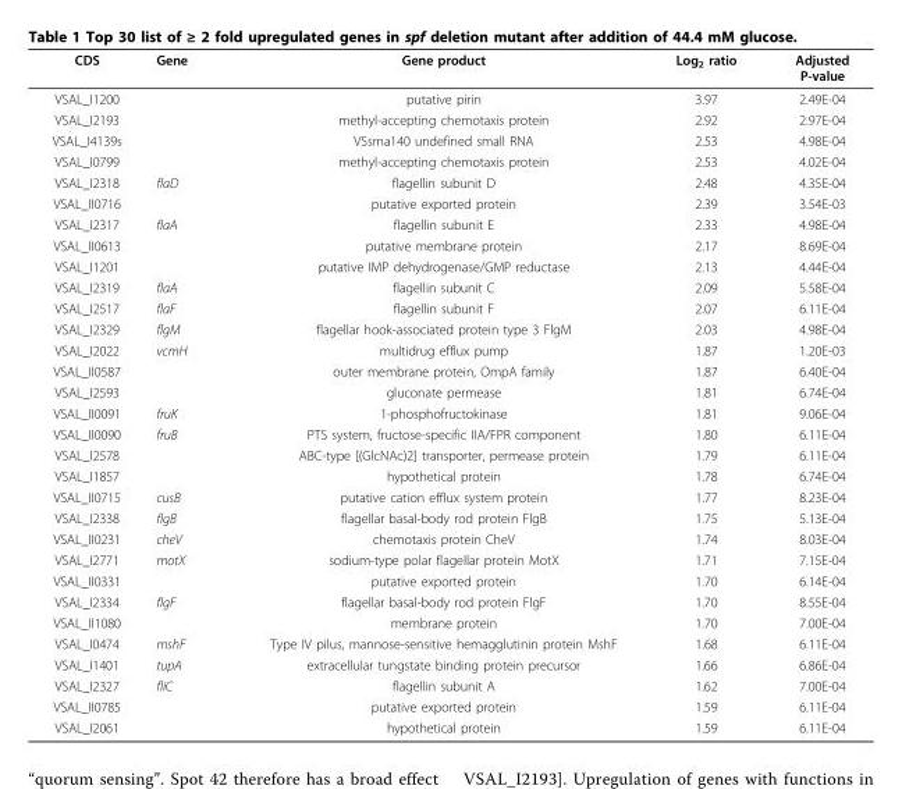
<table><thead><tr><td>CDS</td><td>Gene</td><td>Gene product</td><td>Log<sub>2</sub> ratio</td><td>Adjusted P-value</td></tr></thead><tbody><tr><td>VSAL_I1200</td><td></td><td>putative pirin</td><td>3.97</td><td>2.49E-04</td></tr><tr><td>VSAL_I2193</td><td></td><td>methyl-accepting chemotaxis protein</td><td>2.92</td><td>2.97E-04</td></tr><tr><td>VSAL_I4139s</td><td></td><td>VSsrna140 undefined small RNA</td><td>2.53</td><td>4.98E-04</td></tr><tr><td>VSAL_I0799</td><td></td><td>methyl-accepting chemotaxis protein</td><td>2.53</td><td>4.02E-04</td></tr><tr><td>VSAL_I2318</td><td>flaD</td><td>flagellin subunit D</td><td>2.48</td><td>4.35E-04</td></tr><tr><td>VSAL_II0716</td><td></td><td>putative exported protein</td><td>2.39</td><td>3.54E-03</td></tr><tr><td>VSAL_I2317</td><td>flaA</td><td>flagellin subunit E</td><td>2.33</td><td>4.98E-04</td></tr><tr><td>VSAL_II0613</td><td></td><td>putative membrane protein</td><td>2.17</td><td>8.69E-04</td></tr><tr><td>VSAL_I1201</td><td></td><td>putative IMP dehydrogenase/GMP reductase</td><td>2.13</td><td>4.44E-04</td></tr><tr><td>VSAL_I2319</td><td>flaA</td><td>flagellin subunit C</td><td>2.09</td><td>5.58E-04</td></tr><tr><td>VSAL_I2517</td><td>flaF</td><td>flagellin subunit F</td><td>2.07</td><td>6.11E-04</td></tr><tr><td>VSAL_I2329</td><td>flgM</td><td>flagellar hook-associated protein type 3 FlgM</td><td>2.03</td><td>4.98E-04</td></tr><tr><td>VSAL_I2022</td><td>vcmH</td><td>multidrug efflux pump</td><td>1.87</td><td>1.20E-03</td></tr><tr><td>VSAL_II0587</td><td></td><td>outer membrane protein, OmpA family</td><td>1.87</td><td>6.40E-04</td></tr><tr><td>VSAL_I2593</td><td></td><td>gluconate permease</td><td>1.81</td><td>6.74E-04</td></tr><tr><td>VSAL_II0091</td><td>fruK</td><td>1-phosphofructokinase</td><td>1.81</td><td>9.06E-04</td></tr><tr><td>VSAL_II0090</td><td>fruB</td><td>PTS system, fructose-specific IIA/FPR component</td><td>1.80</td><td>6.11E-04</td></tr><tr><td>VSAL_I2578</td><td></td><td>ABC-type [(GlcNAc)2] transporter, permease protein</td><td>1.79</td><td>6.11E-04</td></tr><tr><td>VSAL_I1857</td><td></td><td>hypothetical protein</td><td>1.78</td><td>6.74E-04</td></tr><tr><td>VSAL_II0715</td><td>cusB</td><td>putative cation efflux system protein</td><td>1.77</td><td>8.23E-04</td></tr><tr><td>VSAL_I2338</td><td>flgB</td><td>flagellar basal-body rod protein FlgB</td><td>1.75</td><td>5.13E-04</td></tr><tr><td>VSAL_II0231</td><td>cheV</td><td>chemotaxis protein CheV</td><td>1.74</td><td>8.03E-04</td></tr><tr><td>VSAL_I2771</td><td>motX</td><td>sodium-type polar flagellar protein MotX</td><td>1.71</td><td>7.15E-04</td></tr><tr><td>VSAL_II0331</td><td></td><td>putative exported protein</td><td>1.70</td><td>6.14E-04</td></tr><tr><td>VSAL_I2334</td><td>flgF</td><td>flagellar basal-body rod protein FlgF</td><td>1.70</td><td>8.55E-04</td></tr><tr><td>VSAL_II1080</td><td></td><td>membrane protein</td><td>1.70</td><td>7.00E-04</td></tr><tr><td>VSAL_I0474</td><td>mshF</td><td>Type IV pilus, mannose-sensitive hemagglutinin protein MshF</td><td>1.68</td><td>6.11E-04</td></tr><tr><td>VSAL_I1401</td><td>tupA</td><td>extracellular tungstate binding protein precursor</td><td>1.66</td><td>6.86E-04</td></tr><tr><td>VSAL_I2327</td><td>fliC</td><td>flagellin subunit A</td><td>1.62</td><td>7.00E-04</td></tr><tr><td>VSAL_II0785</td><td></td><td>putative exported protein</td><td>1.59</td><td>6.11E-04</td></tr><tr><td>VSAL_I2061</td><td></td><td>hypothetical protein</td><td>1.59</td><td>6.11E-04</td></tr></tbody></table>